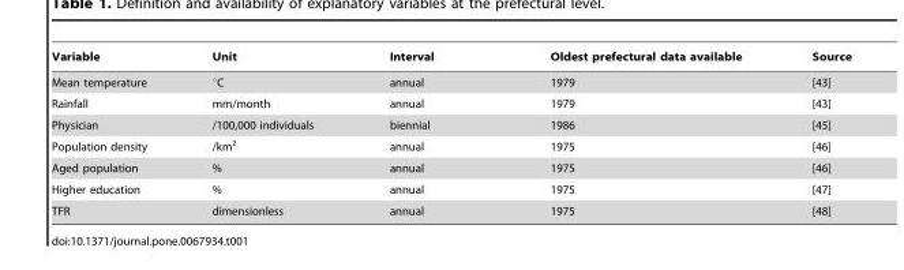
<table><thead><tr><td>Variable</td><td>Unit</td><td>Interval</td><td>Oldest prefectural data available</td><td>Source</td></tr></thead><tbody><tr><td>Mean temperature</td><td>°C</td><td>annual</td><td>1979</td><td>[43]</td></tr><tr><td>Rainfall</td><td>mm/month</td><td>annual</td><td>1979</td><td>[43]</td></tr><tr><td>Physician</td><td>/100,000 individuals</td><td>biennial</td><td>1986</td><td>[45]</td></tr><tr><td>Population density</td><td>/km<sup>2</sup></td><td>annual</td><td>1975</td><td>[46]</td></tr><tr><td>Aged population</td><td>%</td><td>annual</td><td>1975</td><td>[46]</td></tr><tr><td>Higher education</td><td>%</td><td>annual</td><td>1975</td><td>[47]</td></tr><tr><td>TFR</td><td>dimensionless</td><td>annual</td><td>1975</td><td>[48]</td></tr></tbody></table>